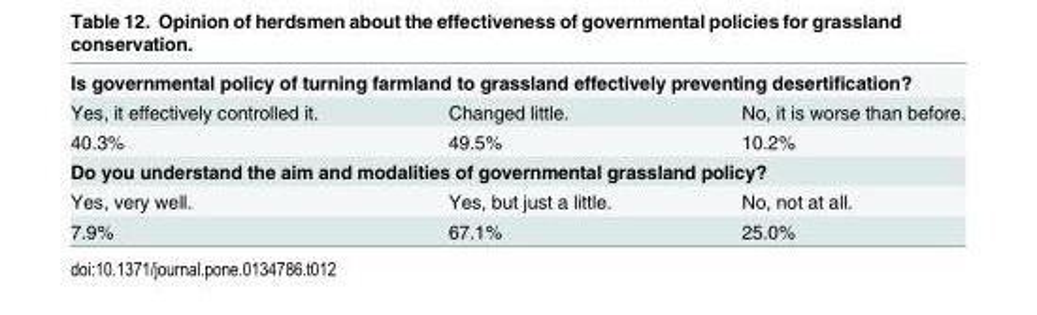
<table><tbody><tr><td colspan="3">Is governmental policy of turning farmland to grassland effectively preventing desertification?</td></tr><tr><td>Yes, it effectively controlled it.</td><td>Changed little.</td><td>No, it is worse than before.</td></tr><tr><td>40.3%</td><td>49.5%</td><td>10.2%</td></tr><tr><td colspan="3">Do you understand the aim and modalities of governmental grassland policy?</td></tr><tr><td>Yes, very well.</td><td>Yes, but just a little.</td><td>No, not at all.</td></tr><tr><td>7.9%</td><td>67.1%</td><td>25.0%</td></tr></tbody></table>